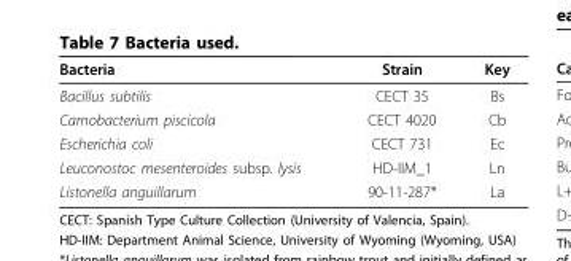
<table><thead><tr><td>Bacteria</td><td>Strain</td><td>Key</td></tr></thead><tbody><tr><td>Bacillus subtilis</td><td>CECT 35</td><td>Bs</td></tr><tr><td>Carnobacterium piscicola</td><td>CECT 4020</td><td>Cb</td></tr><tr><td>Escherichia coli</td><td>CECT 731</td><td>Ec</td></tr><tr><td>Leuconostoc mesenteroides subsp. lysis</td><td>HD-IIM_1</td><td>Ln</td></tr><tr><td>Listonella anguillarum</td><td>90-11-287*</td><td>La</td></tr></tbody></table>